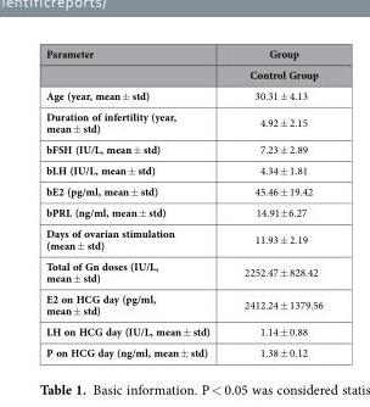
<table><thead><tr><td rowspan="2">Parameter</td><td rowspan="2">Group Control Group</td></tr><tr></tr></thead><tbody><tr><td>Age (year, mean ± std)</td><td>30.31 ± 4.13</td></tr><tr><td>Duration of infertility (year, mean ± std)</td><td>4.92 ± 2.15</td></tr><tr><td>bFSH (IU/L, mean ± std)</td><td>7.23 ± 2.89</td></tr><tr><td>bLH (IU/L, mean ± std)</td><td>4.34 ± 1.81</td></tr><tr><td>bE2 (pg/ml, mean ± std)</td><td>45.46 ± 19.42</td></tr><tr><td>bPRL (ng/ml, mean ± std)</td><td>14.91± 6.27</td></tr><tr><td>Days of ovarian stimulation (mean ± std)</td><td>11.93 ± 2.19</td></tr><tr><td>Total of Gn doses (IU/L, mean ± std)</td><td>2252.47 ± 828.42</td></tr><tr><td>E2 on HCG day (pg/ml, mean ± std)</td><td>2412.24 ± 1379.56</td></tr><tr><td>LH on HCG day (IU/L, mean ± std)</td><td>1.14 ± 0.88</td></tr><tr><td>P on HCG day (ng/ml, mean ± std)</td><td>1.38 ± 0.12</td></tr></tbody></table>